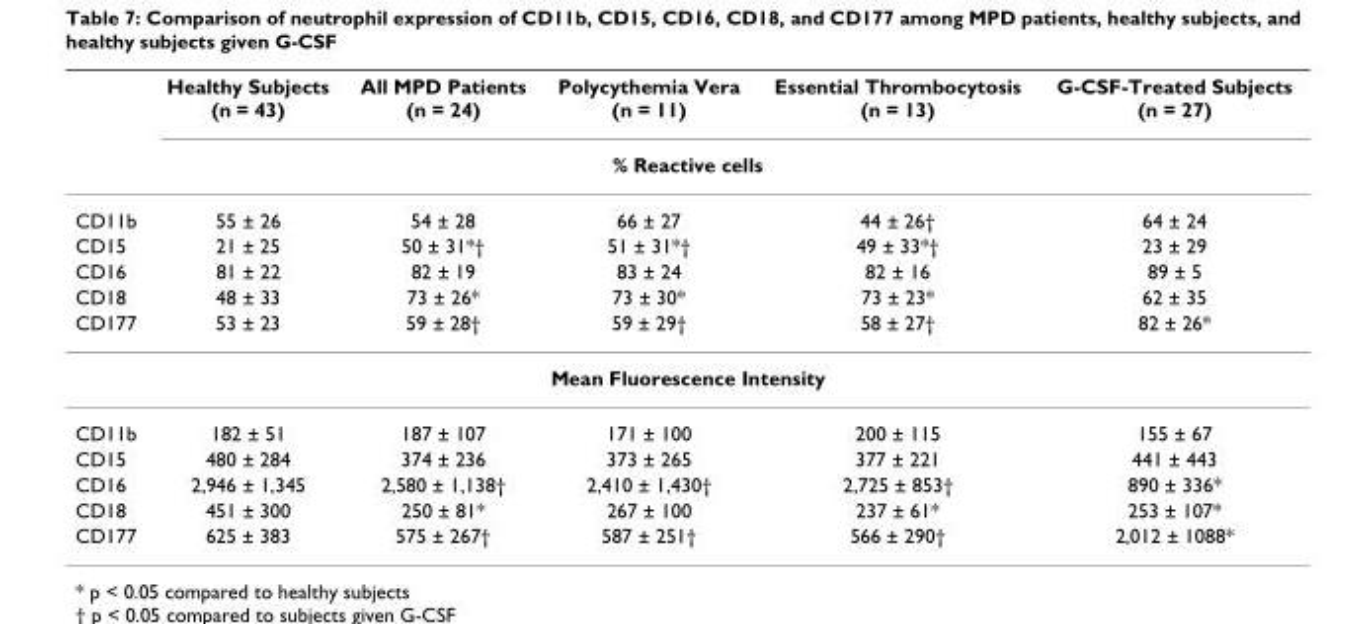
<table><thead><tr><td></td><td>Healthy Subjects (n = 43)</td><td>All MPD Patients (n = 24)</td><td>Polycythemia Vera (n = 11)</td><td>Essential Thrombocytosis (n = 13)</td><td>G-CSF-Treated Subjects (n = 27)</td></tr><tr><td colspan="6">% Reactive cells</td></tr></thead><tbody><tr><td>CD11b</td><td>55 ± 26</td><td>54 ± 28</td><td>66 ± 27</td><td>44 ± 26†</td><td>64 ± 24</td></tr><tr><td>CD15</td><td>21 ± 25</td><td>50 ± 31*†</td><td>51 ± 31*†</td><td>49 ± 33*†</td><td>23 ± 29</td></tr><tr><td>CD16</td><td>81 ± 22</td><td>82 ± 19</td><td>83 ± 24</td><td>82 ± 16</td><td>89 ± 5</td></tr><tr><td>CD18</td><td>48 ± 33</td><td>73 ± 26*</td><td>73 ± 30*</td><td>73 ± 23*</td><td>62 ± 35</td></tr><tr><td>CD177</td><td>53 ± 23</td><td>59 ± 28†</td><td>59 ± 29†</td><td>58 ± 27†</td><td>82 ± 26*</td></tr><tr><td colspan="6">Mean Fluorescence Intensity</td></tr><tr><td>CD11b</td><td>182 ± 51</td><td>187 ± 107</td><td>171 ± 100</td><td>200 ± 115</td><td>155 ± 67</td></tr><tr><td>CD15</td><td>480 ± 284</td><td>374 ± 236</td><td>373 ± 265</td><td>377 ± 221</td><td>441 ± 443</td></tr><tr><td>CD16</td><td>2,946 ± 1,345</td><td>2,580 ± 1,138†</td><td>2,410 ± 1,430†</td><td>2,725 ± 853†</td><td>890 ± 336*</td></tr><tr><td>CD18</td><td>451 ± 300</td><td>250 ± 81*</td><td>267 ± 100</td><td>237 ± 61*</td><td>253 ± 107*</td></tr><tr><td>CD177</td><td>625 ± 383</td><td>575 ± 267†</td><td>587 ± 251†</td><td>566 ± 290†</td><td>2,012 ± 1088*</td></tr></tbody></table>